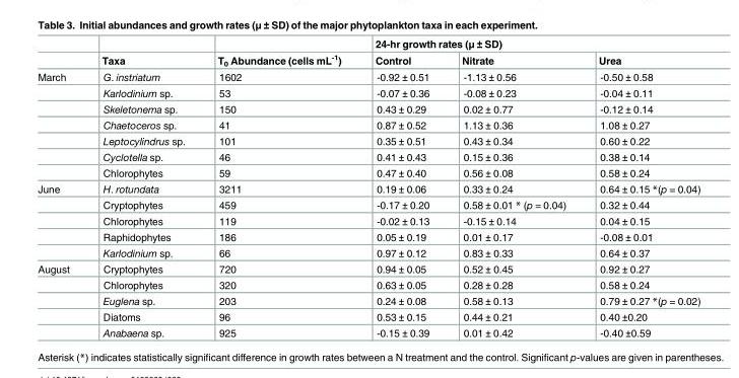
<table><thead><tr><td rowspan="2"></td><td rowspan="2">Taxa</td><td rowspan="2">T<sub>0</sub> Abundance (cells mL<sup>-1</sup>)</td><td colspan="3">24-hr growth rates (μ ± SD)</td></tr><tr><td>Control</td><td>Nitrate</td><td>Urea</td></tr></thead><tbody><tr><td rowspan="7">March</td><td>G. instriatum</td><td>1602</td><td>-0.92 ± 0.51</td><td>-1.13 ± 0.56</td><td>-0.50 ± 0.58</td></tr><tr><td>Karlodinium sp.</td><td>53</td><td>-0.07 ± 0.36</td><td>-0.08 ± 0.23</td><td>-0.04 ± 0.11</td></tr><tr><td>Skeletonema sp.</td><td>150</td><td>0.43 ± 0.29</td><td>0.02 ± 0.77</td><td>-0.12 ± 0.14</td></tr><tr><td>Chaetoceros sp.</td><td>41</td><td>0.87 ± 0.52</td><td>1.13 ± 0.36</td><td>1.08 ± 0.27</td></tr><tr><td>Leptocylindrus sp.</td><td>101</td><td>0.35 ± 0.51</td><td>0.43 ± 0.34</td><td>0.60 ± 0.22</td></tr><tr><td>Cyclotella sp.</td><td>46</td><td>0.41 ± 0.43</td><td>0.15 ± 0.36</td><td>0.38 ± 0.14</td></tr><tr><td>Chlorophytes</td><td>59</td><td>0.47 ± 0.40</td><td>0.56 ± 0.08</td><td>0.58 ± 0.24</td></tr><tr><td rowspan="5">June</td><td>H. rotundata</td><td>3211</td><td>0.19 ± 0.06</td><td>0.33 ± 0.24</td><td>0.64 ± 0.15 *(p = 0.04)</td></tr><tr><td>Cryptophytes</td><td>459</td><td>-0.17 ± 0.20</td><td>0.58 ± 0.01 * (p = 0.04)</td><td>0.32 ± 0.44</td></tr><tr><td>Chlorophytes</td><td>119</td><td>-0.02 ± 0.13</td><td>-0.15 ± 0.14</td><td>0.04 ± 0.15</td></tr><tr><td>Raphidophytes</td><td>186</td><td>0.05 ± 0.19</td><td>0.01 ± 0.17</td><td>-0.08 ± 0.01</td></tr><tr><td>Karlodinium sp.</td><td>66</td><td>0.97 ± 0.12</td><td>0.83 ± 0.33</td><td>0.64 ± 0.37</td></tr><tr><td rowspan="5">August</td><td>Cryptophytes</td><td>720</td><td>0.94 ± 0.05</td><td>0.52 ± 0.45</td><td>0.92 ± 0.27</td></tr><tr><td>Chlorophytes</td><td>320</td><td>0.63 ± 0.05</td><td>0.28 ± 0.28</td><td>0.58 ± 0.24</td></tr><tr><td>Euglena sp.</td><td>203</td><td>0.24 ± 0.08</td><td>0.58 ± 0.13</td><td>0.79 ± 0.27 *(p = 0.02)</td></tr><tr><td>Diatoms</td><td>96</td><td>0.53 ± 0.15</td><td>0.44 ± 0.21</td><td>0.40 ±0.20</td></tr><tr><td>Anabaena sp.</td><td>925</td><td>-0.15 ± 0.39</td><td>0.01 ± 0.42</td><td>-0.40 ±0.59</td></tr></tbody></table>